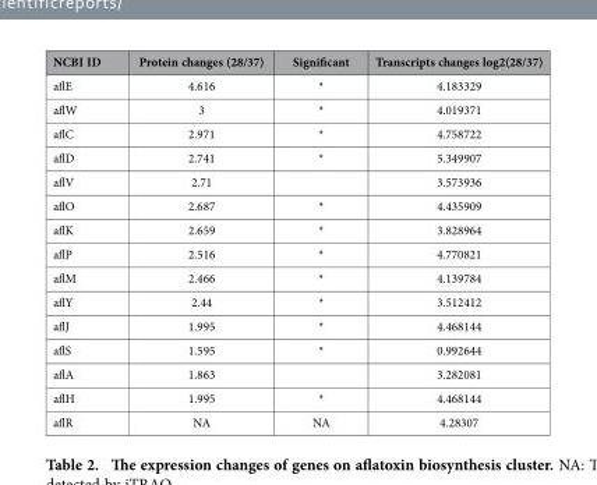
<table><thead><tr><td>NCBI ID</td><td>Protein changes (28/37)</td><td>Significant</td><td>Transcripts changes log2(28/37)</td></tr></thead><tbody><tr><td>aflE</td><td>4.616</td><td>*</td><td>4.183329</td></tr><tr><td>aflW</td><td>3</td><td>*</td><td>4.019371</td></tr><tr><td>aflC</td><td>2.971</td><td>*</td><td>4.758722</td></tr><tr><td>aflD</td><td>2.741</td><td>*</td><td>5.349907</td></tr><tr><td>aflV</td><td>2.71</td><td></td><td>3.573936</td></tr><tr><td>aflO</td><td>2.687</td><td>*</td><td>4.435909</td></tr><tr><td>aflK</td><td>2.659</td><td>*</td><td>3.828964</td></tr><tr><td>aflP</td><td>2.516</td><td>*</td><td>4.770821</td></tr><tr><td>aflM</td><td>2.466</td><td>*</td><td>4.139784</td></tr><tr><td>aflY</td><td>2.44</td><td>*</td><td>3.512412</td></tr><tr><td>aflJ</td><td>1.995</td><td>*</td><td>4.468144</td></tr><tr><td>aflS</td><td>1.595</td><td>*</td><td>0.992644</td></tr><tr><td>aflA</td><td>1.863</td><td></td><td>3.282081</td></tr><tr><td>aflH</td><td>1.995</td><td>*</td><td>4.468144</td></tr><tr><td>aflR</td><td>NA</td><td>NA</td><td>4.28307</td></tr></tbody></table>